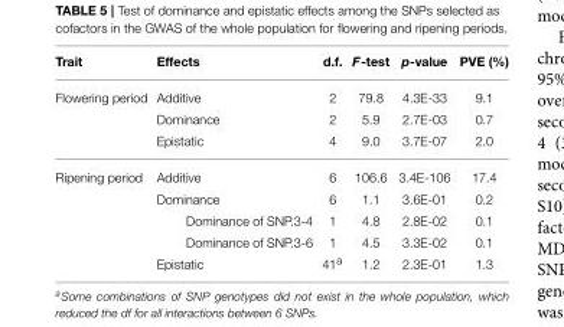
<table><thead><tr><td>Trait</td><td>Effects</td><td>d.f.</td><td>F-test</td><td>p-value</td><td>PVE (%)</td></tr></thead><tbody><tr><td rowspan="3">Flowering period</td><td>Additive</td><td>2</td><td>79.8</td><td>4.3E-33</td><td>9.1</td></tr><tr><td>Dominance</td><td>2</td><td>5.9</td><td>2.7E-03</td><td>0.7</td></tr><tr><td>Epistatic</td><td>4</td><td>9.0</td><td>3.7E-07</td><td>2.0</td></tr><tr><td rowspan="5">Ripening period</td><td>Additive</td><td>6</td><td>106.6</td><td>3.4E-106</td><td>17.4</td></tr><tr><td>Dominance</td><td>6</td><td>1.1</td><td>3.6E-01</td><td>0.2</td></tr><tr><td>Dominance of SNP.3-4</td><td>1</td><td>4.8</td><td>2.8E-02</td><td>0.1</td></tr><tr><td>Dominance of SNP.3-6</td><td>1</td><td>4.5</td><td>3.3E-02</td><td>0.1</td></tr><tr><td>Epistatic</td><td>41<sup>a</sup></td><td>1.2</td><td>2.3E-01</td><td>1.3</td></tr></tbody></table>